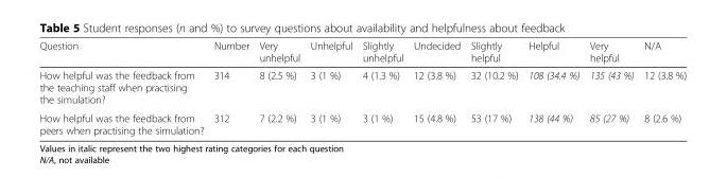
<table><thead><tr><td>Question</td><td>Number</td><td>Very unhelpful</td><td>Unhelpful</td><td>Slightly unhelpful</td><td>Undecided</td><td>Slightly helpful</td><td>Helpful</td><td>Very helpful</td><td>N/A</td></tr></thead><tbody><tr><td>How helpful was the feedback from the teaching staff when practising the simulation?</td><td>314</td><td>8 (2.5 %)</td><td>3 (1 %)</td><td>4 (1.3 %)</td><td>12 (3.8 %)</td><td>32 (10.2 %)</td><td>108 (34.4 %)</td><td>135 (43 %)</td><td>12 (3.8 %)</td></tr><tr><td>How helpful was the feedback from peers when practising the simulation?</td><td>312</td><td>7 (2.2 %)</td><td>3 (1 %)</td><td>3 (1 %)</td><td>15 (4.8 %)</td><td>53 (17 %)</td><td>138 (44 %)</td><td>85 (27 %)</td><td>8 (2.6 %)</td></tr></tbody></table>